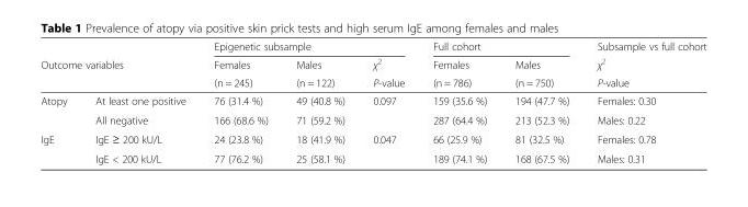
<table><thead><tr><td></td><td></td><td colspan="3">Epigenetic subsample</td><td colspan="2">Full cohort</td><td rowspan="3">Subsample vs full cohort χ<sup>2</sup> P-value</td></tr><tr><td rowspan="2" colspan="2">Outcome variables</td><td rowspan="2">Females (n = 245)</td><td rowspan="2">Males (n = 122)</td><td rowspan="2">χ<sup>2</sup> P-value</td><td rowspan="2">Females (n = 786)</td><td rowspan="2">Males (n = 750)</td></tr><tr></tr></thead><tbody><tr><td rowspan="2">Atopy</td><td>At least one positive</td><td>76 (31.4 %)</td><td>49 (40.8 %)</td><td rowspan="2">0.097</td><td>159 (35.6 %)</td><td>194 (47.7 %)</td><td>Females: 0.30</td></tr><tr><td>All negative</td><td>166 (68.6 %)</td><td>71 (59.2 %)</td><td>287 (64.4 %)</td><td>213 (52.3 %)</td><td>Males: 0.22</td></tr><tr><td rowspan="2">IgE</td><td>IgE ≥ 200 kU/L</td><td>24 (23.8 %)</td><td>18 (41.9 %)</td><td rowspan="2">0.047</td><td>66 (25.9 %)</td><td>81 (32.5 %)</td><td>Females: 0.78</td></tr><tr><td>IgE &lt; 200 kU/L</td><td>77 (76.2 %)</td><td>25 (58.1 %)</td><td>189 (74.1 %)</td><td>168 (67.5 %)</td><td>Males: 0.31</td></tr></tbody></table>